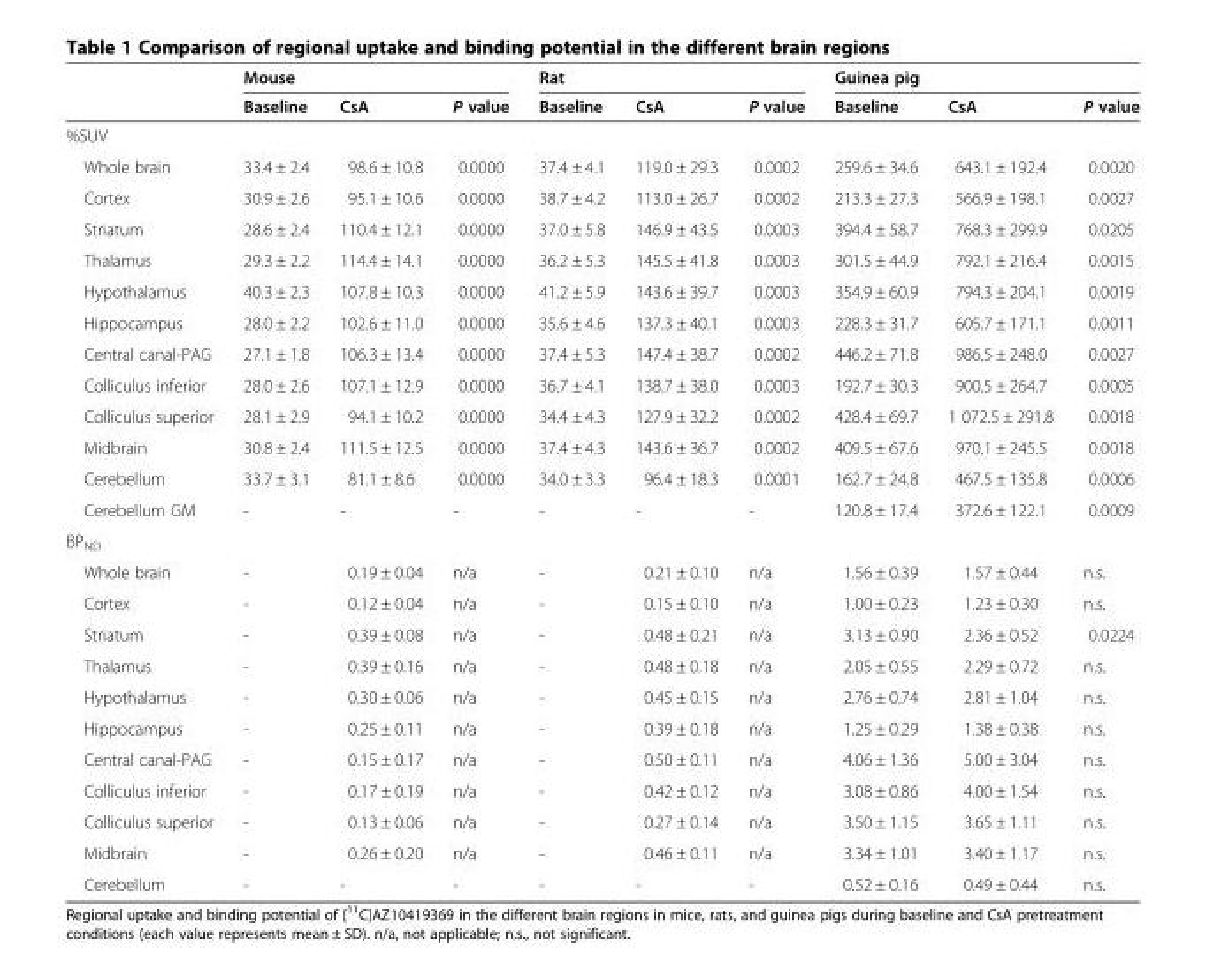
<table><thead><tr><td rowspan="2"></td><td colspan="3">Mouse</td><td colspan="3">Rat</td><td colspan="3">Guinea pig</td></tr><tr><td>Baseline</td><td>CsA</td><td>P value</td><td>Baseline</td><td>CsA</td><td>P value</td><td>Baseline</td><td>CsA</td><td>P value</td></tr></thead><tbody><tr><td colspan="10">%SUV</td></tr><tr><td>Whole brain</td><td>33.4 ± 2.4</td><td>98.6 ± 10.8</td><td>0.0000</td><td>37.4 ± 4.1</td><td>119.0 ± 29.3</td><td>0.0002</td><td>259.6 ± 34.6</td><td>643.1 ± 192.4</td><td>0.0020</td></tr><tr><td>Cortex</td><td>30.9 ± 2.6</td><td>95.1 ± 10.6</td><td>0.0000</td><td>38.7 ± 4.2</td><td>113.0 ± 26.7</td><td>0.0002</td><td>213.3 ± 27.3</td><td>566.9 ± 198.1</td><td>0.0027</td></tr><tr><td>Striatum</td><td>28.6 ± 2.4</td><td>110.4 ± 12.1</td><td>0.0000</td><td>37.0 ± 5.8</td><td>146.9 ± 43.5</td><td>0.0003</td><td>394.4 ± 58.7</td><td>768.3 ± 299.9</td><td>0.0205</td></tr><tr><td>Thalamus</td><td>29.3 ± 2.2</td><td>114.4 ± 14.1</td><td>0.0000</td><td>36.2 ± 5.3</td><td>145.5 ± 41.8</td><td>0.0003</td><td>301.5 ± 44.9</td><td>792.1 ± 216.4</td><td>0.0015</td></tr><tr><td>Hypothalamus</td><td>40.3 ± 2.3</td><td>107.8 ± 10.3</td><td>0.0000</td><td>41.2 ± 5.9</td><td>143.6 ± 39.7</td><td>0.0003</td><td>354.9 ± 60.9</td><td>794.3 ± 204.1</td><td>0.0019</td></tr><tr><td>Hippocampus</td><td>28.0 ± 2.2</td><td>102.6 ± 11.0</td><td>0.0000</td><td>35.6 ± 4.6</td><td>137.3 ± 40.1</td><td>0.0003</td><td>228.3 ± 31.7</td><td>605.7 ± 171.1</td><td>0.0011</td></tr><tr><td>Central canal-PAG</td><td>27.1 ± 1.8</td><td>106.3 ± 13.4</td><td>0.0000</td><td>37.4 ± 5.3</td><td>147.4 ± 38.7</td><td>0.0002</td><td>446.2 ± 71.8</td><td>986.5 ± 248.0</td><td>0.0027</td></tr><tr><td>Colliculus inferior</td><td>28.0 ± 2.6</td><td>107.1 ± 12.9</td><td>0.0000</td><td>36.7 ± 4.1</td><td>138.7 ± 38.0</td><td>0.0003</td><td>192.7 ± 30.3</td><td>900.5 ± 264.7</td><td>0.0005</td></tr><tr><td>Colliculus superior</td><td>28.1 ± 2.9</td><td>94.1 ± 10.2</td><td>0.0000</td><td>34.4 ± 4.3</td><td>127.9 ± 32.2</td><td>0.0002</td><td>428.4 ± 69.7</td><td>1 072.5 ± 291.8</td><td>0.0018</td></tr><tr><td>Midbrain</td><td>30.8 ± 2.4</td><td>111.5 ± 12.5</td><td>0.0000</td><td>37.4 ± 4.3</td><td>143.6 ± 36.7</td><td>0.0002</td><td>409.5 ± 67.6</td><td>970.1 ± 245.5</td><td>0.0018</td></tr><tr><td>Cerebellum</td><td>33.7 ± 3.1</td><td>81.1 ± 8.6</td><td>0.0000</td><td>34.0 ± 3.3</td><td>96.4 ± 18.3</td><td>0.0001</td><td>162.7 ± 24.8</td><td>467.5 ± 135.8</td><td>0.0006</td></tr><tr><td>Cerebellum GM</td><td>-</td><td>-</td><td>-</td><td>-</td><td>-</td><td>-</td><td>120.8 ± 17.4</td><td>372.6 ± 122.1</td><td>0.0009</td></tr><tr><td colspan="10">BP<sub>ND</sub></td></tr><tr><td>Whole brain</td><td>-</td><td>0.19 ± 0.04</td><td>n/a</td><td>-</td><td>0.21 ± 0.10</td><td>n/a</td><td>1.56 ± 0.39</td><td>1.57 ± 0.44</td><td>n.s.</td></tr><tr><td>Cortex</td><td>-</td><td>0.12 ± 0.04</td><td>n/a</td><td>-</td><td>0.15 ± 0.10</td><td>n/a</td><td>1.00 ± 0.23</td><td>1.23 ± 0.30</td><td>n.s.</td></tr><tr><td>Striatum</td><td>-</td><td>0.39 ± 0.08</td><td>n/a</td><td>-</td><td>0.48 ± 0.21</td><td>n/a</td><td>3.13 ± 0.90</td><td>2.36 ± 0.52</td><td>0.0224</td></tr><tr><td>Thalamus</td><td>-</td><td>0.39 ± 0.16</td><td>n/a</td><td>-</td><td>0.48 ± 0.18</td><td>n/a</td><td>2.05 ± 0.55</td><td>2.29 ± 0.72</td><td>n.s.</td></tr><tr><td>Hypothalamus</td><td>-</td><td>0.30 ± 0.06</td><td>n/a</td><td>-</td><td>0.45 ± 0.15</td><td>n/a</td><td>2.76 ± 0.74</td><td>2.81 ± 1.04</td><td>n.s.</td></tr><tr><td>Hippocampus</td><td>-</td><td>0.25 ± 0.11</td><td>n/a</td><td>-</td><td>0.39 ± 0.18</td><td>n/a</td><td>1.25 ± 0.29</td><td>1.38 ± 0.38</td><td>n.s.</td></tr><tr><td>Central canal-PAG</td><td>-</td><td>0.15 ± 0.17</td><td>n/a</td><td>-</td><td>0.50 ± 0.11</td><td>n/a</td><td>4.06 ± 1.36</td><td>5.00 ± 3.04</td><td>n.s.</td></tr><tr><td>Colliculus inferior</td><td>-</td><td>0.17 ± 0.19</td><td>n/a</td><td>-</td><td>0.42 ± 0.12</td><td>n/a</td><td>3.08 ± 0.86</td><td>4.00 ± 1.54</td><td>n.s.</td></tr><tr><td>Colliculus superior</td><td>-</td><td>0.13 ± 0.06</td><td>n/a</td><td>-</td><td>0.27 ± 0.14</td><td>n/a</td><td>3.50 ± 1.15</td><td>3.65 ± 1.11</td><td>n.s.</td></tr><tr><td>Midbrain</td><td>-</td><td>0.26 ± 0.20</td><td>n/a</td><td>-</td><td>0.46 ± 0.11</td><td>n/a</td><td>3.34 ± 1.01</td><td>3.40 ± 1.17</td><td>n.s.</td></tr><tr><td>Cerebellum</td><td>-</td><td>-</td><td>-</td><td>-</td><td>-</td><td>-</td><td>0.52 ± 0.16</td><td>0.49 ± 0.44</td><td>n.s.</td></tr></tbody></table>